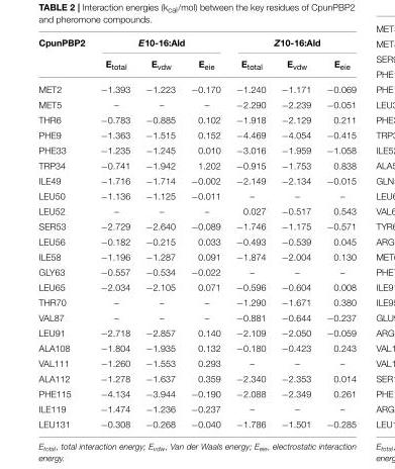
<table><thead><tr><td rowspan="2">CpunPBP2</td><td colspan="3">E10-16:Ald</td><td colspan="3">Z10-16:Ald</td></tr><tr><td>E<sub>total</sub></td><td>E<sub>vdw</sub></td><td>E<sub>eie</sub></td><td>E<sub>total</sub></td><td>E<sub>vdw</sub></td><td>E<sub>eie</sub></td></tr></thead><tbody><tr><td>MET2</td><td>−1.393</td><td>−1.223</td><td>−0.170</td><td>−1.240</td><td>−1.171</td><td>−0.069</td></tr><tr><td>MET5</td><td>–</td><td>–</td><td>–</td><td>−2.290</td><td>−2.239</td><td>−0.051</td></tr><tr><td>THR6</td><td>−0.783</td><td>−0.885</td><td>0.102</td><td>−1.918</td><td>−2.129</td><td>0.211</td></tr><tr><td>PHE9</td><td>−1.363</td><td>−1.515</td><td>0.152</td><td>−4.469</td><td>−4.054</td><td>−0.415</td></tr><tr><td>PHE33</td><td>−1.235</td><td>−1.245</td><td>0.010</td><td>−3.016</td><td>−1.959</td><td>−1.058</td></tr><tr><td>TRP34</td><td>−0.741</td><td>−1.942</td><td>1.202</td><td>−0.915</td><td>−1.753</td><td>0.838</td></tr><tr><td>ILE49</td><td>−1.716</td><td>−1.714</td><td>−0.002</td><td>−2.149</td><td>−2.134</td><td>−0.015</td></tr><tr><td>LEU50</td><td>−1.136</td><td>−1.125</td><td>−0.011</td><td>–</td><td>–</td><td>–</td></tr><tr><td>LEU52</td><td>–</td><td>–</td><td>–</td><td>0.027</td><td>−0.517</td><td>0.543</td></tr><tr><td>SER53</td><td>−2.729</td><td>−2.640</td><td>−0.089</td><td>−1.746</td><td>−1.175</td><td>−0.571</td></tr><tr><td>LEU56</td><td>−0.182</td><td>−0.215</td><td>0.033</td><td>−0.493</td><td>−0.539</td><td>0.045</td></tr><tr><td>ILE58</td><td>−1.196</td><td>−1.287</td><td>0.091</td><td>−1.874</td><td>−2.004</td><td>0.130</td></tr><tr><td>GLY63</td><td>−0.557</td><td>−0.534</td><td>−0.022</td><td>–</td><td>–</td><td>–</td></tr><tr><td>LEU65</td><td>−2.034</td><td>−2.105</td><td>0.071</td><td>−0.596</td><td>−0.604</td><td>0.008</td></tr><tr><td>THR70</td><td>–</td><td>–</td><td>–</td><td>−1.290</td><td>−1.671</td><td>0.380</td></tr><tr><td>VAL87</td><td>–</td><td>–</td><td>–</td><td>−0.881</td><td>−0.644</td><td>−0.237</td></tr><tr><td>LEU91</td><td>−2.718</td><td>−2.857</td><td>0.140</td><td>−2.109</td><td>−2.050</td><td>−0.059</td></tr><tr><td>ALA108</td><td>−1.804</td><td>−1.935</td><td>0.132</td><td>−0.180</td><td>−0.423</td><td>0.243</td></tr><tr><td>VAL111</td><td>−1.260</td><td>−1.553</td><td>0.293</td><td>–</td><td>–</td><td>–</td></tr><tr><td>ALA112</td><td>−1.278</td><td>−1.637</td><td>0.359</td><td>−2.340</td><td>−2.353</td><td>0.014</td></tr><tr><td>PHE115</td><td>−4.134</td><td>−3.944</td><td>−0.190</td><td>−2.088</td><td>−2.349</td><td>0.261</td></tr><tr><td>ILE119</td><td>−1.474</td><td>−1.236</td><td>−0.237</td><td>–</td><td>–</td><td>–</td></tr><tr><td>LEU131</td><td>−0.308</td><td>−0.268</td><td>−0.040</td><td>−1.786</td><td>−1.501</td><td>−0.285</td></tr></tbody></table>